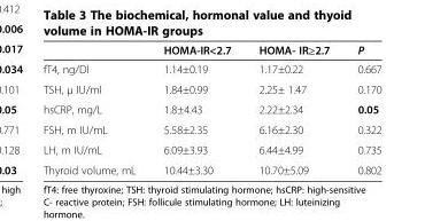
<table><thead><tr><td></td><td>HOMA-IR&lt;2.7</td><td>HOMA- IR≥2.7</td><td>P</td></tr></thead><tbody><tr><td>fT4, ng/Dl</td><td>1.14±0.19</td><td>1.17±0.22</td><td>0.667</td></tr><tr><td>TSH, μ IU/ml</td><td>1.84±0.99</td><td>2.25± 1.47</td><td>0.170</td></tr><tr><td>hsCRP, mg/L</td><td>1.8±4.43</td><td>2.22±2.34</td><td>0.05</td></tr><tr><td>FSH, m IU/mL</td><td>5.58±2.35</td><td>6.16±2.30</td><td>0.322</td></tr><tr><td>LH, m IU/mL</td><td>6.09±3.93</td><td>6.44±4.99</td><td>0.735</td></tr><tr><td>Thyroid volume, mL</td><td>10.44±3.30</td><td>10.70±5.09</td><td>0.802</td></tr></tbody></table>